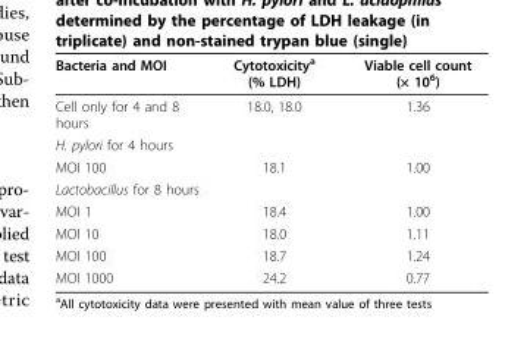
<table><thead><tr><td>Bacteria and MOI</td><td>Cytotoxicity<sup>a</sup> (% LDH)</td><td>Viable cell count (× 10<sup>6</sup>)</td></tr></thead><tbody><tr><td>Cell only for 4 and 8 hours</td><td>18.0, 18.0</td><td>1.36</td></tr><tr><td colspan="3">H. pylori for 4 hours</td></tr><tr><td>MOI 100</td><td>18.1</td><td>1.00</td></tr><tr><td colspan="3">Lactobacillus for 8 hours</td></tr><tr><td>MOI 1</td><td>18.4</td><td>1.00</td></tr><tr><td>MOI 10</td><td>18.0</td><td>1.11</td></tr><tr><td>MOI 100</td><td>18.7</td><td>1.24</td></tr><tr><td>MOI 1000</td><td>24.2</td><td>0.77</td></tr></tbody></table>